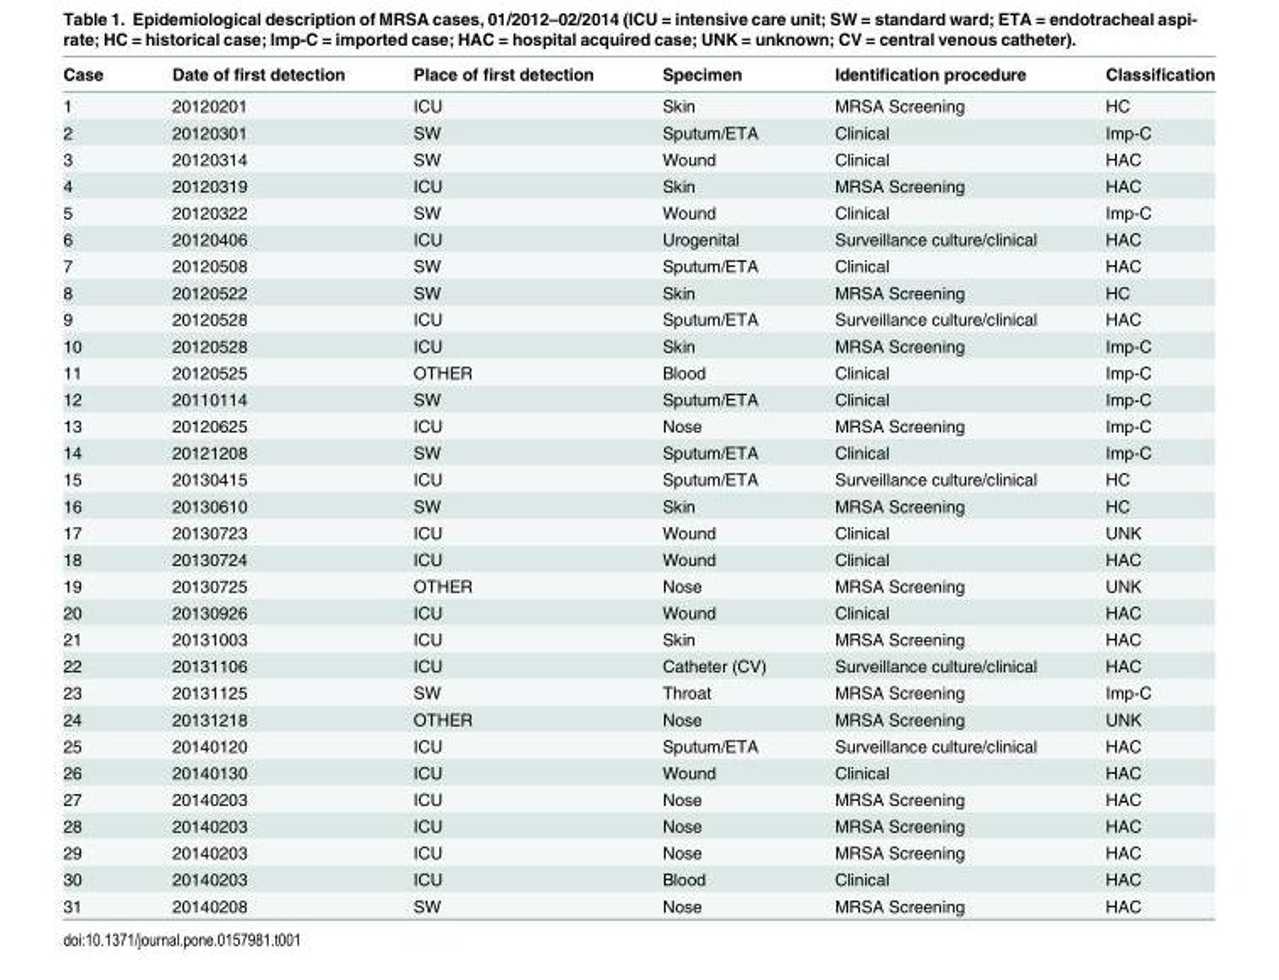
<table><thead><tr><td>Case</td><td>Date of first detection</td><td>Place of first detection</td><td>Specimen</td><td>Identification procedure</td><td>Classification</td></tr></thead><tbody><tr><td>1</td><td>20120201</td><td>ICU</td><td>Skin</td><td>MRSA Screening</td><td>HC</td></tr><tr><td>2</td><td>20120301</td><td>SW</td><td>Sputum/ETA</td><td>Clinical</td><td>Imp-C</td></tr><tr><td>3</td><td>20120314</td><td>SW</td><td>Wound</td><td>Clinical</td><td>HAC</td></tr><tr><td>4</td><td>20120319</td><td>ICU</td><td>Skin</td><td>MRSA Screening</td><td>HAC</td></tr><tr><td>5</td><td>20120322</td><td>SW</td><td>Wound</td><td>Clinical</td><td>Imp-C</td></tr><tr><td>6</td><td>20120406</td><td>ICU</td><td>Urogenital</td><td>Surveillance culture/clinical</td><td>HAC</td></tr><tr><td>7</td><td>20120508</td><td>SW</td><td>Sputum/ETA</td><td>Clinical</td><td>HAC</td></tr><tr><td>8</td><td>20120522</td><td>SW</td><td>Skin</td><td>MRSA Screening</td><td>HC</td></tr><tr><td>9</td><td>20120528</td><td>ICU</td><td>Sputum/ETA</td><td>Surveillance culture/clinical</td><td>HAC</td></tr><tr><td>10</td><td>20120528</td><td>ICU</td><td>Skin</td><td>MRSA Screening</td><td>Imp-C</td></tr><tr><td>11</td><td>20120525</td><td>OTHER</td><td>Blood</td><td>Clinical</td><td>Imp-C</td></tr><tr><td>12</td><td>20110114</td><td>SW</td><td>Sputum/ETA</td><td>Clinical</td><td>Imp-C</td></tr><tr><td>13</td><td>20120625</td><td>ICU</td><td>Nose</td><td>MRSA Screening</td><td>Imp-C</td></tr><tr><td>14</td><td>20121208</td><td>SW</td><td>Sputum/ETA</td><td>Clinical</td><td>Imp-C</td></tr><tr><td>15</td><td>20130415</td><td>ICU</td><td>Sputum/ETA</td><td>Surveillance culture/clinical</td><td>HC</td></tr><tr><td>16</td><td>20130610</td><td>SW</td><td>Skin</td><td>MRSA Screening</td><td>HC</td></tr><tr><td>17</td><td>20130723</td><td>ICU</td><td>Wound</td><td>Clinical</td><td>UNK</td></tr><tr><td>18</td><td>20130724</td><td>ICU</td><td>Wound</td><td>Clinical</td><td>HAC</td></tr><tr><td>19</td><td>20130725</td><td>OTHER</td><td>Nose</td><td>MRSA Screening</td><td>UNK</td></tr><tr><td>20</td><td>20130926</td><td>ICU</td><td>Wound</td><td>Clinical</td><td>HAC</td></tr><tr><td>21</td><td>20131003</td><td>ICU</td><td>Skin</td><td>MRSA Screening</td><td>HAC</td></tr><tr><td>22</td><td>20131106</td><td>ICU</td><td>Catheter (CV)</td><td>Surveillance culture/clinical</td><td>HAC</td></tr><tr><td>23</td><td>20131125</td><td>SW</td><td>Throat</td><td>MRSA Screening</td><td>Imp-C</td></tr><tr><td>24</td><td>20131218</td><td>OTHER</td><td>Nose</td><td>MRSA Screening</td><td>UNK</td></tr><tr><td>25</td><td>20140120</td><td>ICU</td><td>Sputum/ETA</td><td>Surveillance culture/clinical</td><td>HAC</td></tr><tr><td>26</td><td>20140130</td><td>ICU</td><td>Wound</td><td>Clinical</td><td>HAC</td></tr><tr><td>27</td><td>20140203</td><td>ICU</td><td>Nose</td><td>MRSA Screening</td><td>HAC</td></tr><tr><td>28</td><td>20140203</td><td>ICU</td><td>Nose</td><td>MRSA Screening</td><td>HAC</td></tr><tr><td>29</td><td>20140203</td><td>ICU</td><td>Nose</td><td>MRSA Screening</td><td>HAC</td></tr><tr><td>30</td><td>20140203</td><td>ICU</td><td>Blood</td><td>Clinical</td><td>HAC</td></tr><tr><td>31</td><td>20140208</td><td>SW</td><td>Nose</td><td>MRSA Screening</td><td>HAC</td></tr></tbody></table>